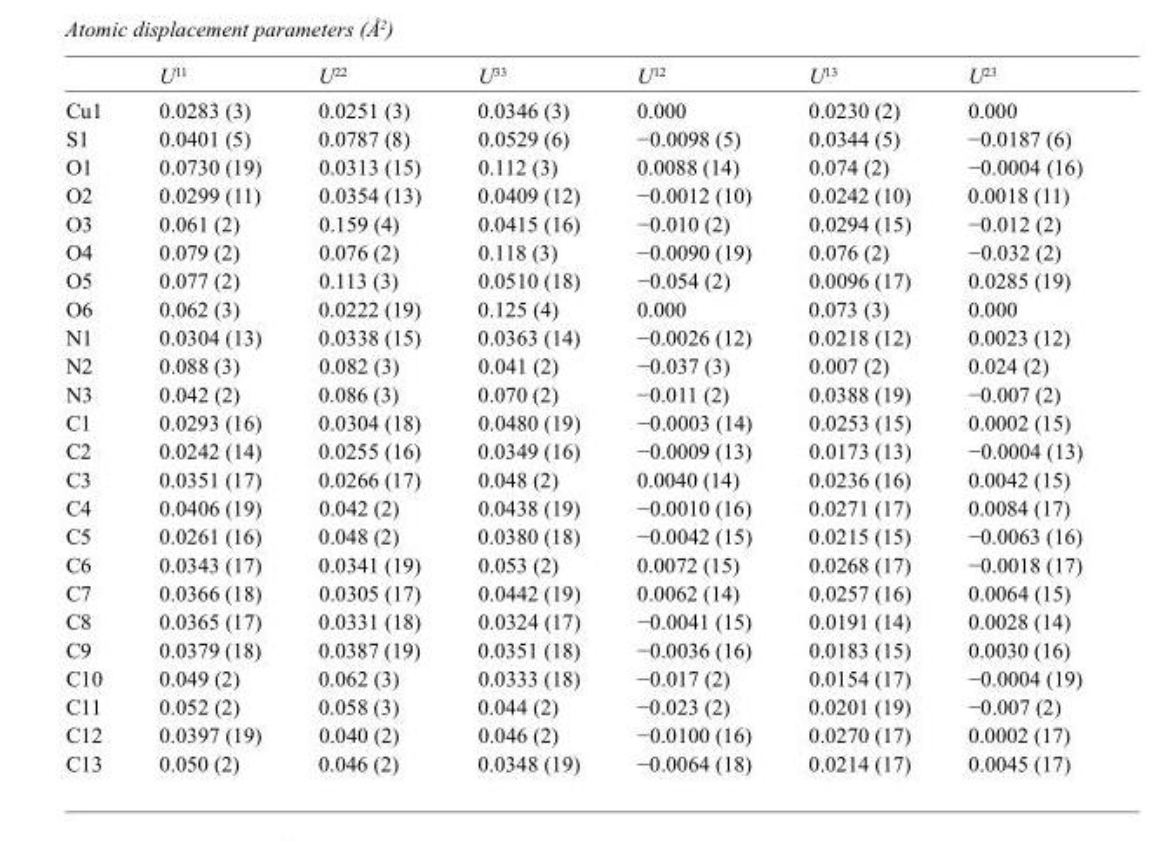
<table><thead><tr><td></td><td>U<sup>11</sup></td><td>U<sup>22</sup></td><td>U<sup>33</sup></td><td>U<sup>12</sup></td><td>U<sup>13</sup></td><td>U<sup>23</sup></td></tr></thead><tbody><tr><td>Cu1</td><td>0.0283 (3)</td><td>0.0251 (3)</td><td>0.0346 (3)</td><td>0.000</td><td>0.0230 (2)</td><td>0.000</td></tr><tr><td>S1</td><td>0.0401 (5)</td><td>0.0787 (8)</td><td>0.0529 (6)</td><td>−0.0098 (5)</td><td>0.0344 (5)</td><td>−0.0187 (6)</td></tr><tr><td>O1</td><td>0.0730 (19)</td><td>0.0313 (15)</td><td>0.112 (3)</td><td>0.0088 (14)</td><td>0.074 (2)</td><td>−0.0004 (16)</td></tr><tr><td>O2</td><td>0.0299 (11)</td><td>0.0354 (13)</td><td>0.0409 (12)</td><td>−0.0012 (10)</td><td>0.0242 (10)</td><td>0.0018 (11)</td></tr><tr><td>O3</td><td>0.061 (2)</td><td>0.159 (4)</td><td>0.0415 (16)</td><td>−0.010 (2)</td><td>0.0294 (15)</td><td>−0.012 (2)</td></tr><tr><td>O4</td><td>0.079 (2)</td><td>0.076 (2)</td><td>0.118 (3)</td><td>−0.0090 (19)</td><td>0.076 (2)</td><td>−0.032 (2)</td></tr><tr><td>O5</td><td>0.077 (2)</td><td>0.113 (3)</td><td>0.0510 (18)</td><td>−0.054 (2)</td><td>0.0096 (17)</td><td>0.0285 (19)</td></tr><tr><td>O6</td><td>0.062 (3)</td><td>0.0222 (19)</td><td>0.125 (4)</td><td>0.000</td><td>0.073 (3)</td><td>0.000</td></tr><tr><td>N1</td><td>0.0304 (13)</td><td>0.0338 (15)</td><td>0.0363 (14)</td><td>−0.0026 (12)</td><td>0.0218 (12)</td><td>0.0023 (12)</td></tr><tr><td>N2</td><td>0.088 (3)</td><td>0.082 (3)</td><td>0.041 (2)</td><td>−0.037 (3)</td><td>0.007 (2)</td><td>0.024 (2)</td></tr><tr><td>N3</td><td>0.042 (2)</td><td>0.086 (3)</td><td>0.070 (2)</td><td>−0.011 (2)</td><td>0.0388 (19)</td><td>−0.007 (2)</td></tr><tr><td>C1</td><td>0.0293 (16)</td><td>0.0304 (18)</td><td>0.0480 (19)</td><td>−0.0003 (14)</td><td>0.0253 (15)</td><td>0.0002 (15)</td></tr><tr><td>C2</td><td>0.0242 (14)</td><td>0.0255 (16)</td><td>0.0349 (16)</td><td>−0.0009 (13)</td><td>0.0173 (13)</td><td>−0.0004 (13)</td></tr><tr><td>C3</td><td>0.0351 (17)</td><td>0.0266 (17)</td><td>0.048 (2)</td><td>0.0040 (14)</td><td>0.0236 (16)</td><td>0.0042 (15)</td></tr><tr><td>C4</td><td>0.0406 (19)</td><td>0.042 (2)</td><td>0.0438 (19)</td><td>−0.0010 (16)</td><td>0.0271 (17)</td><td>0.0084 (17)</td></tr><tr><td>C5</td><td>0.0261 (16)</td><td>0.048 (2)</td><td>0.0380 (18)</td><td>−0.0042 (15)</td><td>0.0215 (15)</td><td>−0.0063 (16)</td></tr><tr><td>C6</td><td>0.0343 (17)</td><td>0.0341 (19)</td><td>0.053 (2)</td><td>0.0072 (15)</td><td>0.0268 (17)</td><td>−0.0018 (17)</td></tr><tr><td>C7</td><td>0.0366 (18)</td><td>0.0305 (17)</td><td>0.0442 (19)</td><td>0.0062 (14)</td><td>0.0257 (16)</td><td>0.0064 (15)</td></tr><tr><td>C8</td><td>0.0365 (17)</td><td>0.0331 (18)</td><td>0.0324 (17)</td><td>−0.0041 (15)</td><td>0.0191 (14)</td><td>0.0028 (14)</td></tr><tr><td>C9</td><td>0.0379 (18)</td><td>0.0387 (19)</td><td>0.0351 (18)</td><td>−0.0036 (16)</td><td>0.0183 (15)</td><td>0.0030 (16)</td></tr><tr><td>C10</td><td>0.049 (2)</td><td>0.062 (3)</td><td>0.0333 (18)</td><td>−0.017 (2)</td><td>0.0154 (17)</td><td>−0.0004 (19)</td></tr><tr><td>C11</td><td>0.052 (2)</td><td>0.058 (3)</td><td>0.044 (2)</td><td>−0.023 (2)</td><td>0.0201 (19)</td><td>−0.007 (2)</td></tr><tr><td>C12</td><td>0.0397 (19)</td><td>0.040 (2)</td><td>0.046 (2)</td><td>−0.0100 (16)</td><td>0.0270 (17)</td><td>0.0002 (17)</td></tr><tr><td>C13</td><td>0.050 (2)</td><td>0.046 (2)</td><td>0.0348 (19)</td><td>−0.0064 (18)</td><td>0.0214 (17)</td><td>0.0045 (17)</td></tr></tbody></table>